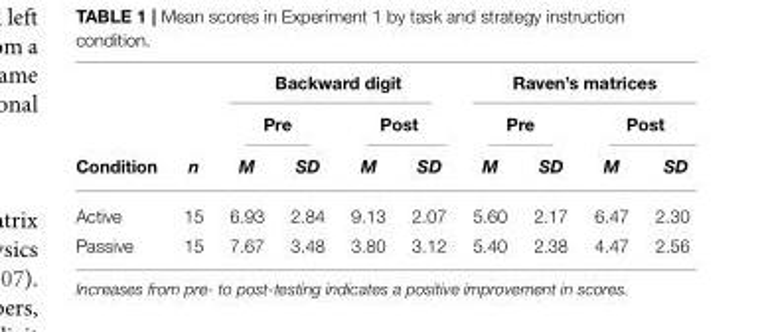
<table><thead><tr><td rowspan="3">Condition</td><td rowspan="3">n</td><td colspan="4">Backward digit</td><td colspan="4">Raven’s matrices</td></tr><tr><td colspan="2">Pre</td><td colspan="2">Post</td><td colspan="2">Pre</td><td colspan="2">Post</td></tr><tr><td>M</td><td>SD</td><td>M</td><td>SD</td><td>M</td><td>SD</td><td>M</td><td>SD</td></tr></thead><tbody><tr><td>Active</td><td>15</td><td>6.93</td><td>2.84</td><td>9.13</td><td>2.07</td><td>5.60</td><td>2.17</td><td>6.47</td><td>2.30</td></tr><tr><td>Passive</td><td>15</td><td>7.67</td><td>3.48</td><td>3.80</td><td>3.12</td><td>5.40</td><td>2.38</td><td>4.47</td><td>2.56</td></tr></tbody></table>